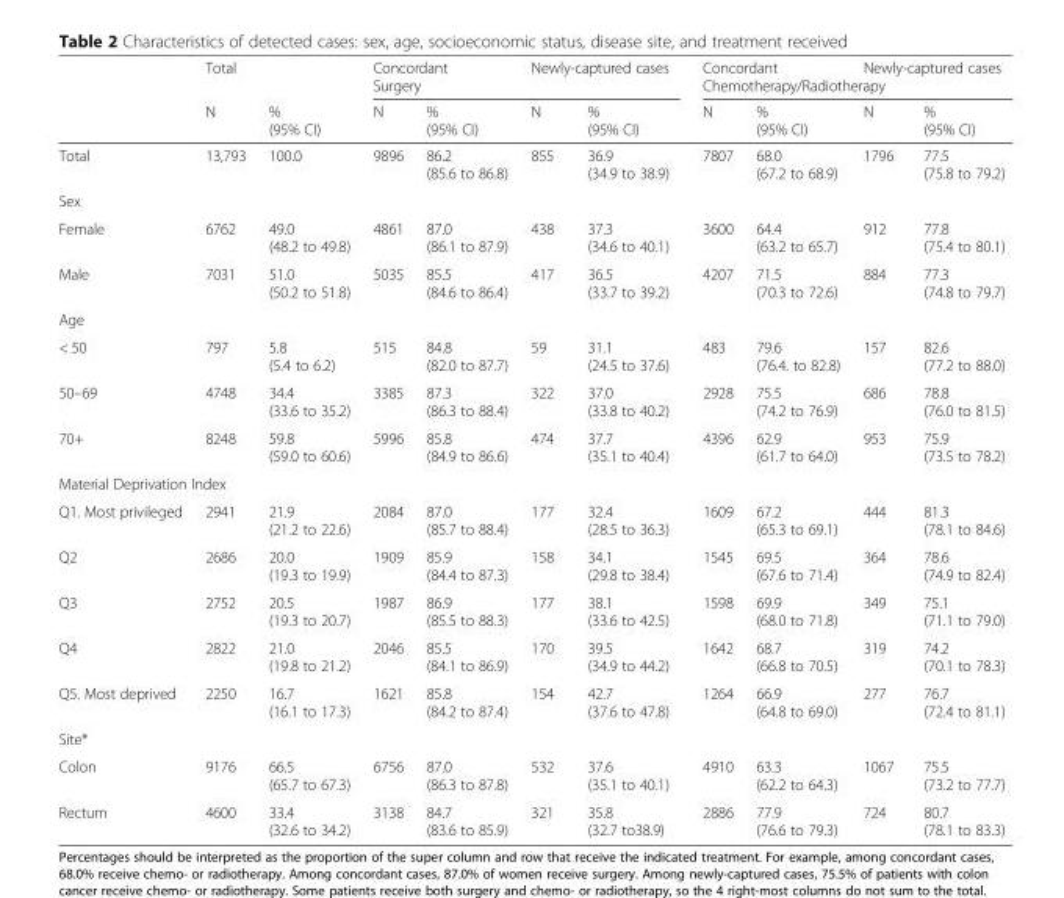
<table><thead><tr><td rowspan="3"></td><td colspan="2">Total</td><td colspan="2">Concordant</td><td colspan="2">Newly-captured cases</td><td colspan="2">Concordant</td><td colspan="2">Newly-captured cases</td></tr><tr><td rowspan="2">N</td><td rowspan="2">% (95% CI)</td><td colspan="4">Surgery</td><td colspan="4">Chemotherapy/Radiotherapy</td></tr><tr><td>N</td><td>% (95% CI)</td><td>N</td><td>% (95% CI)</td><td>N</td><td>% (95% CI)</td><td>N</td><td>% (95% CI)</td></tr></thead><tbody><tr><td>Total</td><td>13,793</td><td>100.0</td><td>9896</td><td>86.2 (85.6 to 86.8)</td><td>855</td><td>36.9 (34.9 to 38.9)</td><td>7807</td><td>68.0 (67.2 to 68.9)</td><td>1796</td><td>77.5 (75.8 to 79.2)</td></tr><tr><td colspan="11">Sex</td></tr><tr><td>Female</td><td>6762</td><td>49.0 (48.2 to 49.8)</td><td>4861</td><td>87.0 (86.1 to 87.9)</td><td>438</td><td>37.3 (34.6 to 40.1)</td><td>3600</td><td>64.4 (63.2 to 65.7)</td><td>912</td><td>77.8 (75.4 to 80.1)</td></tr><tr><td>Male</td><td>7031</td><td>51.0 (50.2 to 51.8)</td><td>5035</td><td>85.5 (84.6 to 86.4)</td><td>417</td><td>36.5 (33.7 to 39.2)</td><td>4207</td><td>71.5 (70.3 to 72.6)</td><td>884</td><td>77.3 (74.8 to 79.7)</td></tr><tr><td colspan="11">Age</td></tr><tr><td>&lt; 50</td><td>797</td><td>5.8 (5.4 to 6.2)</td><td>515</td><td>84.8 (82.0 to 87.7)</td><td>59</td><td>31.1 (24.5 to 37.6)</td><td>483</td><td>79.6 (76.4. to 82.8)</td><td>157</td><td>82.6 (77.2 to 88.0)</td></tr><tr><td>50–69</td><td>4748</td><td>34.4 (33.6 to 35.2)</td><td>3385</td><td>87.3 (86.3 to 88.4)</td><td>322</td><td>37.0 (33.8 to 40.2)</td><td>2928</td><td>75.5 (74.2 to 76.9)</td><td>686</td><td>78.8 (76.0 to 81.5)</td></tr><tr><td>70+</td><td>8248</td><td>59.8 (59.0 to 60.6)</td><td>5996</td><td>85.8 (84.9 to 86.6)</td><td>474</td><td>37.7 (35.1 to 40.4)</td><td>4396</td><td>62.9 (61.7 to 64.0)</td><td>953</td><td>75.9 (73.5 to 78.2)</td></tr><tr><td colspan="11">Material Deprivation Index</td></tr><tr><td>Q1. Most privileged</td><td>2941</td><td>21.9 (21.2 to 22.6)</td><td>2084</td><td>87.0 (85.7 to 88.4)</td><td>177</td><td>32.4 (28.5 to 36.3)</td><td>1609</td><td>67.2 (65.3 to 69.1)</td><td>444</td><td>81.3 (78.1 to 84.6)</td></tr><tr><td>Q2</td><td>2686</td><td>20.0 (19.3 to 19.9)</td><td>1909</td><td>85.9 (84.4 to 87.3)</td><td>158</td><td>34.1 (29.8 to 38.4)</td><td>1545</td><td>69.5 (67.6 to 71.4)</td><td>364</td><td>78.6 (74.9 to 82.4)</td></tr><tr><td>Q3</td><td>2752</td><td>20.5 (19.3 to 20.7)</td><td>1987</td><td>86.9 (85.5 to 88.3)</td><td>177</td><td>38.1 (33.6 to 42.5)</td><td>1598</td><td>69.9 (68.0 to 71.8)</td><td>349</td><td>75.1 (71.1 to 79.0)</td></tr><tr><td>Q4</td><td>2822</td><td>21.0 (19.8 to 21.2)</td><td>2046</td><td>85.5 (84.1 to 86.9)</td><td>170</td><td>39.5 (34.9 to 44.2)</td><td>1642</td><td>68.7 (66.8 to 70.5)</td><td>319</td><td>74.2 (70.1 to 78.3)</td></tr><tr><td>Q5. Most deprived</td><td>2250</td><td>16.7 (16.1 to 17.3)</td><td>1621</td><td>85.8 (84.2 to 87.4)</td><td>154</td><td>42.7 (37.6 to 47.8)</td><td>1264</td><td>66.9 (64.8 to 69.0)</td><td>277</td><td>76.7 (72.4 to 81.1)</td></tr><tr><td colspan="11">Site*</td></tr><tr><td>Colon</td><td>9176</td><td>66.5 (65.7 to 67.3)</td><td>6756</td><td>87.0 (86.3 to 87.8)</td><td>532</td><td>37.6 (35.1 to 40.1)</td><td>4910</td><td>63.3 (62.2 to 64.3)</td><td>1067</td><td>75.5 (73.2 to 77.7)</td></tr><tr><td>Rectum</td><td>4600</td><td>33.4 (32.6 to 34.2)</td><td>3138</td><td>84.7 (83.6 to 85.9)</td><td>321</td><td>35.8 (32.7 to38.9)</td><td>2886</td><td>77.9 (76.6 to 79.3)</td><td>724</td><td>80.7 (78.1 to 83.3)</td></tr></tbody></table>